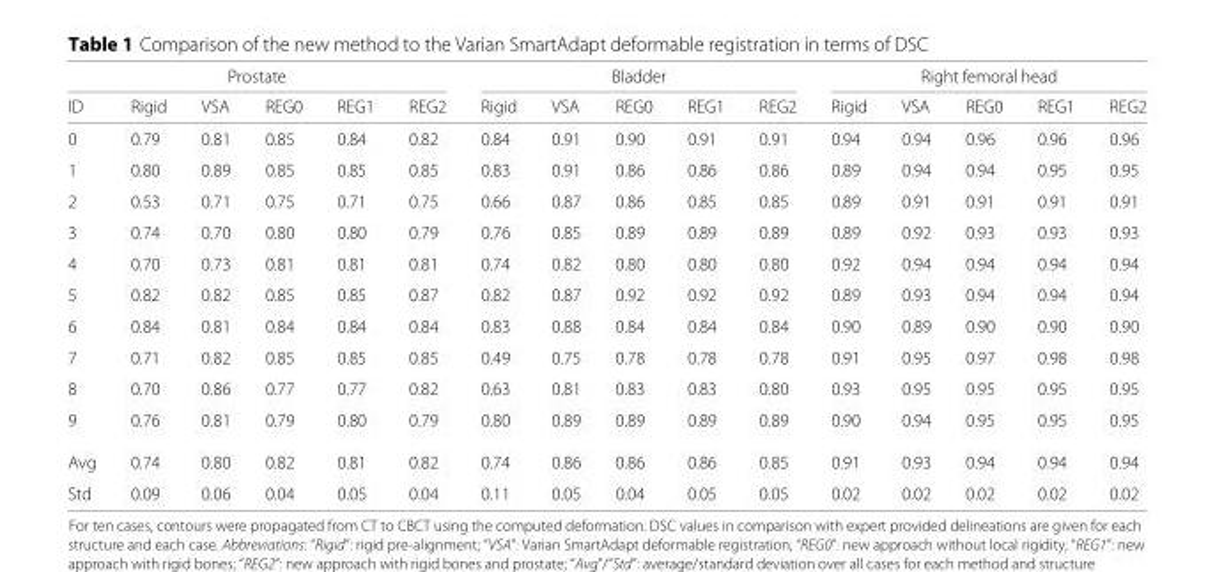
<table><thead><tr><td colspan="6">Prostate</td><td colspan="5">Bladder</td><td colspan="5">Right femoral head</td></tr><tr><td>ID</td><td>Rigid</td><td>VSA</td><td>REG0</td><td>REG1</td><td>REG2</td><td>Rigid</td><td>VSA</td><td>REG0</td><td>REG1</td><td>REG2</td><td>Rigid</td><td>VSA</td><td>REG0</td><td>REG1</td><td>REG2</td></tr></thead><tbody><tr><td>0</td><td>0.79</td><td>0.81</td><td>0.85</td><td>0.84</td><td>0.82</td><td>0.84</td><td>0.91</td><td>0.90</td><td>0.91</td><td>0.91</td><td>0.94</td><td>0.94</td><td>0.96</td><td>0.96</td><td>0.96</td></tr><tr><td>1</td><td>0.80</td><td>0.89</td><td>0.85</td><td>0.85</td><td>0.85</td><td>0.83</td><td>0.91</td><td>0.86</td><td>0.86</td><td>0.86</td><td>0.89</td><td>0.94</td><td>0.94</td><td>0.95</td><td>0.95</td></tr><tr><td>2</td><td>0.53</td><td>0.71</td><td>0.75</td><td>0.71</td><td>0.75</td><td>0.66</td><td>0.87</td><td>0.86</td><td>0.85</td><td>0.85</td><td>0.89</td><td>0.91</td><td>0.91</td><td>0.91</td><td>0.91</td></tr><tr><td>3</td><td>0.74</td><td>0.70</td><td>0.80</td><td>0.80</td><td>0.79</td><td>0.76</td><td>0.85</td><td>0.89</td><td>0.89</td><td>0.89</td><td>0.89</td><td>0.92</td><td>0.93</td><td>0.93</td><td>0.93</td></tr><tr><td>4</td><td>0.70</td><td>0.73</td><td>0.81</td><td>0.81</td><td>0.81</td><td>0.74</td><td>0.82</td><td>0.80</td><td>0.80</td><td>0.80</td><td>0.92</td><td>0.94</td><td>0.94</td><td>0.94</td><td>0.94</td></tr><tr><td>5</td><td>0.82</td><td>0.82</td><td>0.85</td><td>0.85</td><td>0.87</td><td>0.82</td><td>0.87</td><td>0.92</td><td>0.92</td><td>0.92</td><td>0.89</td><td>0.93</td><td>0.94</td><td>0.94</td><td>0.94</td></tr><tr><td>6</td><td>0.84</td><td>0.81</td><td>0.84</td><td>0.84</td><td>0.84</td><td>0.83</td><td>0.88</td><td>0.84</td><td>0.84</td><td>0.84</td><td>0.90</td><td>0.89</td><td>0.90</td><td>0.90</td><td>0.90</td></tr><tr><td>7</td><td>0.71</td><td>0.82</td><td>0.85</td><td>0.85</td><td>0.85</td><td>0.49</td><td>0.75</td><td>0.78</td><td>0.78</td><td>0.78</td><td>0.91</td><td>0.95</td><td>0.97</td><td>0.98</td><td>0.98</td></tr><tr><td>8</td><td>0.70</td><td>0.86</td><td>0.77</td><td>0.77</td><td>0.82</td><td>0.63</td><td>0.81</td><td>0.83</td><td>0.83</td><td>0.80</td><td>0.93</td><td>0.95</td><td>0.95</td><td>0.95</td><td>0.95</td></tr><tr><td>9</td><td>0.76</td><td>0.81</td><td>0.79</td><td>0.80</td><td>0.79</td><td>0.80</td><td>0.89</td><td>0.89</td><td>0.89</td><td>0.89</td><td>0.90</td><td>0.94</td><td>0.95</td><td>0.95</td><td>0.95</td></tr><tr><td>Avg</td><td>0.74</td><td>0.80</td><td>0.82</td><td>0.81</td><td>0.82</td><td>0.74</td><td>0.86</td><td>0.86</td><td>0.86</td><td>0.85</td><td>0.91</td><td>0.93</td><td>0.94</td><td>0.94</td><td>0.94</td></tr><tr><td>Std</td><td>0.09</td><td>0.06</td><td>0.04</td><td>0.05</td><td>0.04</td><td>0.11</td><td>0.05</td><td>0.04</td><td>0.05</td><td>0.05</td><td>0.02</td><td>0.02</td><td>0.02</td><td>0.02</td><td>0.02</td></tr></tbody></table>